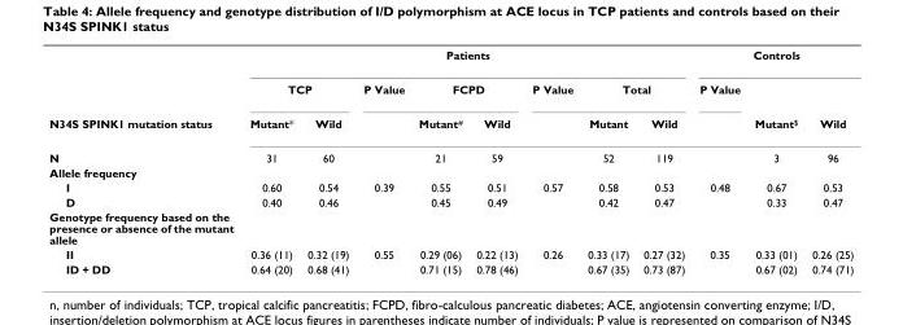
<table><thead><tr><td rowspan="3">N34S SPINK1 mutation status</td><td colspan="8">Patients</td><td colspan="3">Controls</td></tr><tr><td colspan="2">TCP</td><td rowspan="2">P Value</td><td colspan="2">FCPD</td><td rowspan="2">P Value</td><td colspan="2">Total</td><td rowspan="2">P Value</td><td rowspan="2">Mutant$</td><td rowspan="2">Wild</td></tr><tr><td>Mutant*</td><td>Wild</td><td>Mutant#</td><td>Wild</td><td>Mutant</td><td>Wild</td></tr></thead><tbody><tr><td>N</td><td>31</td><td>60</td><td></td><td>21</td><td>59</td><td></td><td>52</td><td>119</td><td></td><td>3</td><td>96</td></tr><tr><td colspan="12">Allele frequency</td></tr><tr><td>I</td><td>0.60</td><td>0.54</td><td>0.39</td><td>0.55</td><td>0.51</td><td>0.57</td><td>0.58</td><td>0.53</td><td>0.48</td><td>0.67</td><td>0.53</td></tr><tr><td>D</td><td>0.40</td><td>0.46</td><td></td><td>0.45</td><td>0.49</td><td></td><td>0.42</td><td>0.47</td><td></td><td>0.33</td><td>0.47</td></tr><tr><td colspan="12">Genotype frequency based on the presence or absence of the mutant allele</td></tr><tr><td>II</td><td>0.36 (11)</td><td>0.32 (19)</td><td>0.55</td><td>0.29 (06)</td><td>0.22 (13)</td><td>0.26</td><td>0.33 (17)</td><td>0.27 (32)</td><td>0.35</td><td>0.33 (01)</td><td>0.26 (25)</td></tr><tr><td>ID + DD</td><td>0.64 (20)</td><td>0.68 (41)</td><td></td><td>0.71 (15)</td><td>0.78 (46)</td><td></td><td>0.67 (35)</td><td>0.73 (87)</td><td></td><td>0.67 (02)</td><td>0.74 (71)</td></tr></tbody></table>